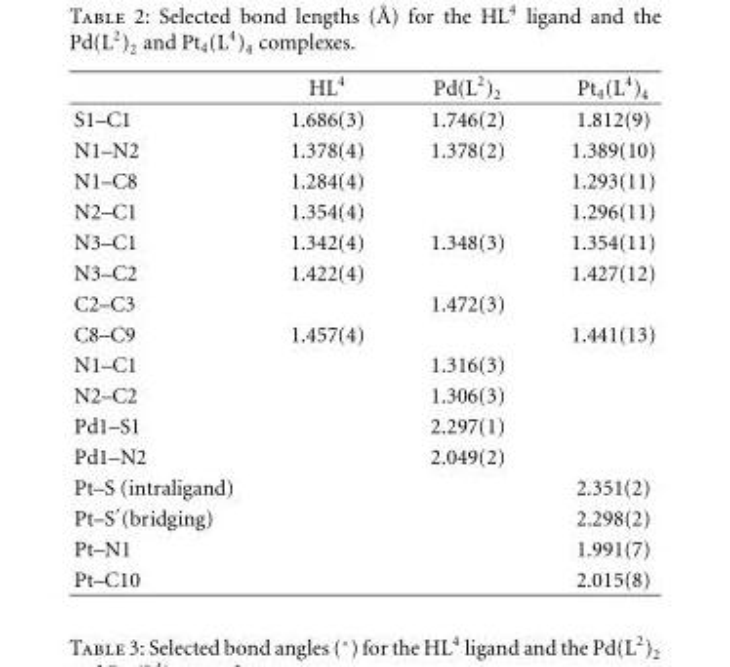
<table><thead><tr><td></td><td>HL<sup>4</sup></td><td>Pd(L<sup>2</sup>)<sub>2</sub></td><td>Pt<sub>4</sub>(L<sup>4</sup>)<sub>4</sub></td></tr></thead><tbody><tr><td>S1–C1</td><td>1.686(3)</td><td>1.746(2)</td><td>1.812(9)</td></tr><tr><td>N1–N2</td><td>1.378(4)</td><td>1.378(2)</td><td>1.389(10)</td></tr><tr><td>N1–C8</td><td>1.284(4)</td><td></td><td>1.293(11)</td></tr><tr><td>N2–C1</td><td>1.354(4)</td><td></td><td>1.296(11)</td></tr><tr><td>N3–C1</td><td>1.342(4)</td><td>1.348(3)</td><td>1.354(11)</td></tr><tr><td>N3–C2</td><td>1.422(4)</td><td></td><td>1.427(12)</td></tr><tr><td>C2–C3</td><td></td><td>1.472(3)</td><td></td></tr><tr><td>C8–C9</td><td>1.457(4)</td><td></td><td>1.441(13)</td></tr><tr><td>N1–C1</td><td></td><td>1.316(3)</td><td></td></tr><tr><td>N2–C2</td><td></td><td>1.306(3)</td><td></td></tr><tr><td>Pd1–S1</td><td></td><td>2.297(1)</td><td></td></tr><tr><td>Pd1–N2</td><td></td><td>2.049(2)</td><td></td></tr><tr><td>Pt–S (intraligand)</td><td></td><td></td><td>2.351(2)</td></tr><tr><td>Pt–S′(bridging)</td><td></td><td></td><td>2.298(2)</td></tr><tr><td>Pt–N1</td><td></td><td></td><td>1.991(7)</td></tr><tr><td>Pt–C10</td><td></td><td></td><td>2.015(8)</td></tr></tbody></table>